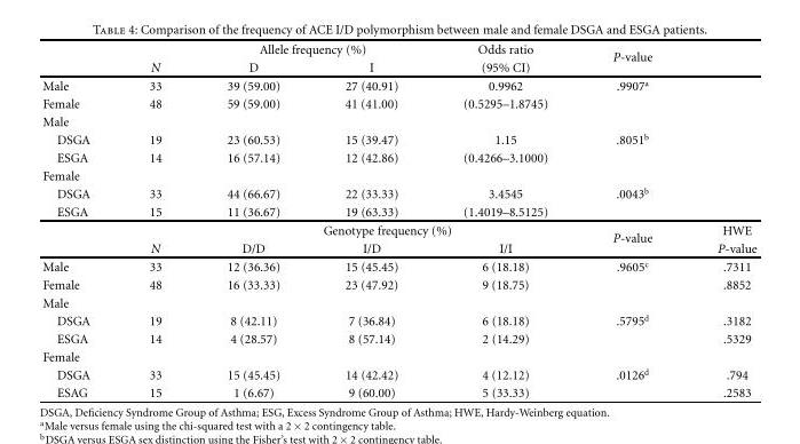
<table><thead><tr><td rowspan="2"></td><td rowspan="2">N</td><td colspan="2">Allele frequency (%)</td><td rowspan="2">Odds ratio (95% CI)</td><td rowspan="2">P-value</td><td rowspan="2"></td></tr><tr><td>D</td><td>I</td></tr></thead><tbody><tr><td>Male</td><td>33</td><td>39 (59.00)</td><td>27 (40.91)</td><td>0.9962</td><td>.9907<sup>a</sup></td><td></td></tr><tr><td>Female</td><td>48</td><td>59 (59.00)</td><td>41 (41.00)</td><td>(0.5295–1.8745)</td><td></td><td></td></tr><tr><td colspan="7">Male</td></tr><tr><td>DSGA</td><td>19</td><td>23 (60.53)</td><td>15 (39.47)</td><td>1.15</td><td>.8051<sup>b</sup></td><td></td></tr><tr><td>ESGA</td><td>14</td><td>16 (57.14)</td><td>12 (42.86)</td><td>(0.4266–3.1000)</td><td></td><td></td></tr><tr><td colspan="7">Female</td></tr><tr><td>DSGA</td><td>33</td><td>44 (66.67)</td><td>22 (33.33)</td><td>3.4545</td><td>.0043<sup>b</sup></td><td></td></tr><tr><td rowspan="3">ESGA</td><td>15</td><td>11 (36.67)</td><td>19 (63.33)</td><td>(1.4019–8.5125)</td><td></td><td></td></tr><tr><td></td><td colspan="3">Genotype frequency (%)</td><td rowspan="2">P-value</td><td>HWE</td></tr><tr><td>N</td><td>D/D</td><td>I/D</td><td>I/I</td><td>P-value</td></tr><tr><td>Male</td><td>33</td><td>12 (36.36)</td><td>15 (45.45)</td><td>6 (18.18)</td><td>.9605<sup>c</sup></td><td>.7311</td></tr><tr><td>Female</td><td>48</td><td>16 (33.33)</td><td>23 (47.92)</td><td>9 (18.75)</td><td></td><td>.8852</td></tr><tr><td colspan="7">Male</td></tr><tr><td>DSGA</td><td>19</td><td>8 (42.11)</td><td>7 (36.84)</td><td>6 (18.18)</td><td>.5795<sup>d</sup></td><td>.3182</td></tr><tr><td>ESGA</td><td>14</td><td>4 (28.57)</td><td>8 (57.14)</td><td>2 (14.29)</td><td></td><td>.5329</td></tr><tr><td colspan="7">Female</td></tr><tr><td>DSGA</td><td>33</td><td>15 (45.45)</td><td>14 (42.42)</td><td>4 (12.12)</td><td>.0126<sup>d</sup></td><td>.794</td></tr><tr><td>ESAG</td><td>15</td><td>1 (6.67)</td><td>9 (60.00)</td><td>5 (33.33)</td><td></td><td>.2583</td></tr></tbody></table>